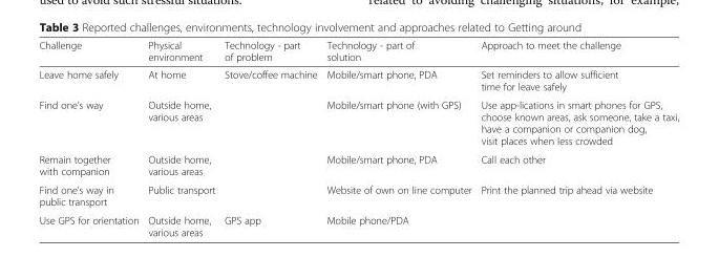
<table><thead><tr><td>Challenge</td><td>Physical environment</td><td>Technology - part of problem</td><td>Technology - part of solution</td><td>Approach to meet the challenge</td></tr></thead><tbody><tr><td>Leave home safely</td><td>At home</td><td>Stove/coffee machine</td><td>Mobile/smart phone, PDA</td><td>Set reminders to allow sufficient time for leave safely</td></tr><tr><td>Find one’s way</td><td>Outside home, various areas</td><td></td><td>Mobile/smart phone (with GPS)</td><td>Use app-lications in smart phones for GPS, choose known areas, ask someone, take a taxi, have a companion or companion dog, visit places when less crowded</td></tr><tr><td>Remain together with companion</td><td>Outside home, various areas</td><td></td><td>Mobile/smart phone, PDA</td><td>Call each other</td></tr><tr><td>Find one’s way in public transport</td><td>Public transport</td><td></td><td>Website of own on line computer</td><td>Print the planned trip ahead via website</td></tr><tr><td>Use GPS for orientation</td><td>Outside home, various areas</td><td>GPS app</td><td>Mobile phone/PDA</td><td></td></tr></tbody></table>